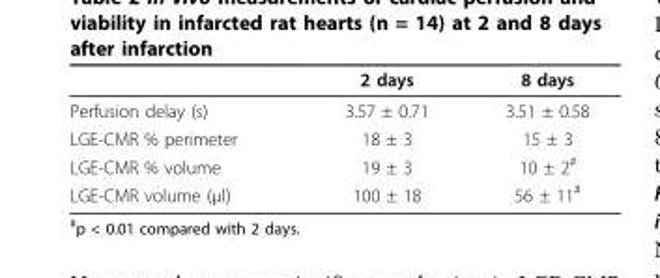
<table><thead><tr><td></td><td>2 days</td><td>8 days</td></tr></thead><tbody><tr><td>Perfusion delay (s)</td><td>3.57 ± 0.71</td><td>3.51 ± 0.58</td></tr><tr><td>LGE-CMR % perimeter</td><td>18 ± 3</td><td>15 ± 3</td></tr><tr><td>LGE-CMR % volume</td><td>19 ± 3</td><td>10 ± 2<sup>#</sup></td></tr><tr><td>LGE-CMR volume (μl)</td><td>100 ± 18</td><td>56 ± 11<sup>#</sup></td></tr></tbody></table>